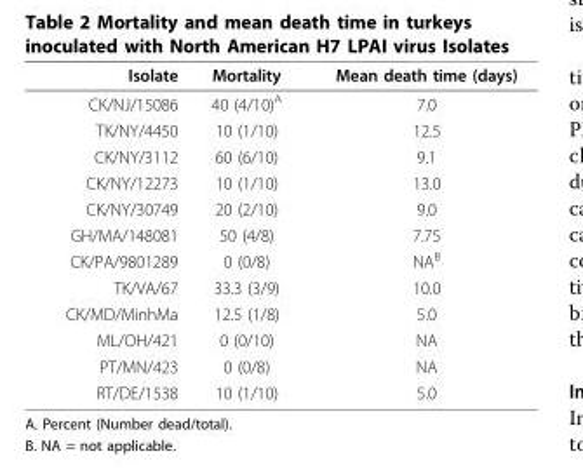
<table><thead><tr><td>Isolate</td><td>Mortality</td><td>Mean death time (days)</td></tr></thead><tbody><tr><td>CK/NJ/15086</td><td>40 (4/10)<sup>A</sup></td><td>7.0</td></tr><tr><td>TK/NY/4450</td><td>10 (1/10)</td><td>12.5</td></tr><tr><td>CK/NY/3112</td><td>60 (6/10)</td><td>9.1</td></tr><tr><td>CK/NY/12273</td><td>10 (1/10)</td><td>13.0</td></tr><tr><td>CK/NY/30749</td><td>20 (2/10)</td><td>9.0</td></tr><tr><td>GH/MA/148081</td><td>50 (4/8)</td><td>7.75</td></tr><tr><td>CK/PA/9801289</td><td>0 (0/8)</td><td>NA<sup>B</sup></td></tr><tr><td>TK/VA/67</td><td>33.3 (3/9)</td><td>10.0</td></tr><tr><td>CK/MD/MinhMa</td><td>12.5 (1/8)</td><td>5.0</td></tr><tr><td>ML/OH/421</td><td>0 (0/10)</td><td>NA</td></tr><tr><td>PT/MN/423</td><td>0 (0/8)</td><td>NA</td></tr><tr><td>RT/DE/1538</td><td>10 (1/10)</td><td>5.0</td></tr></tbody></table>